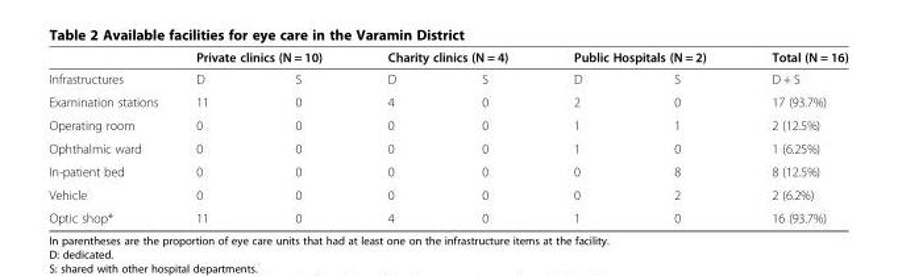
<table><thead><tr><td rowspan="2">Infrastructures</td><td colspan="2">Private clinics (N = 10)</td><td colspan="2">Charity clinics (N = 4)</td><td colspan="2">Public Hospitals (N = 2)</td><td rowspan="2">Total (N = 16) D + S</td></tr><tr><td>D</td><td>S</td><td>D</td><td>S</td><td>D</td><td>S</td></tr></thead><tbody><tr><td>Examination stations</td><td>11</td><td>0</td><td>4</td><td>0</td><td>2</td><td>0</td><td>17 (93.7%)</td></tr><tr><td>Operating room</td><td>0</td><td>0</td><td>0</td><td>0</td><td>1</td><td>1</td><td>2 (12.5%)</td></tr><tr><td>Ophthalmic ward</td><td>0</td><td>0</td><td>0</td><td>0</td><td>1</td><td>0</td><td>1 (6.25%)</td></tr><tr><td>In-patient bed</td><td>0</td><td>0</td><td>0</td><td>0</td><td>0</td><td>8</td><td>8 (12.5%)</td></tr><tr><td>Vehicle</td><td>0</td><td>0</td><td>0</td><td>0</td><td>0</td><td>2</td><td>2 (6.2%)</td></tr><tr><td>Optic shop*</td><td>11</td><td>0</td><td>4</td><td>0</td><td>1</td><td>0</td><td>16 (93.7%)</td></tr></tbody></table>